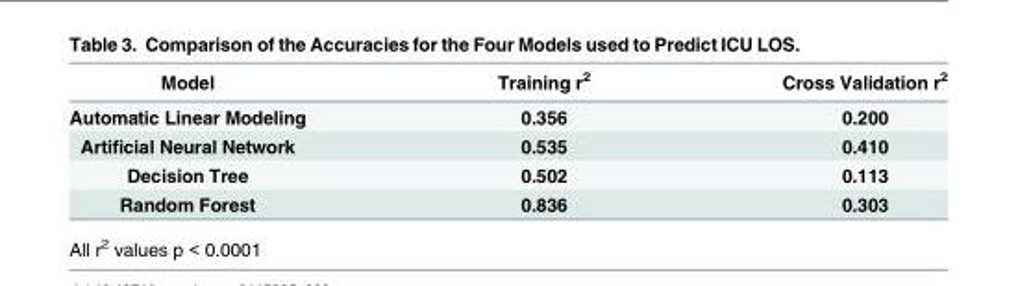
<table><thead><tr><td>Model</td><td>Training r<sup>2</sup></td><td>Cross Validation r<sup>2</sup></td></tr></thead><tbody><tr><td>Automatic Linear Modeling</td><td>0.356</td><td>0.200</td></tr><tr><td>Artificial Neural Network</td><td>0.535</td><td>0.410</td></tr><tr><td>Decision Tree</td><td>0.502</td><td>0.113</td></tr><tr><td>Random Forest</td><td>0.836</td><td>0.303</td></tr></tbody></table>